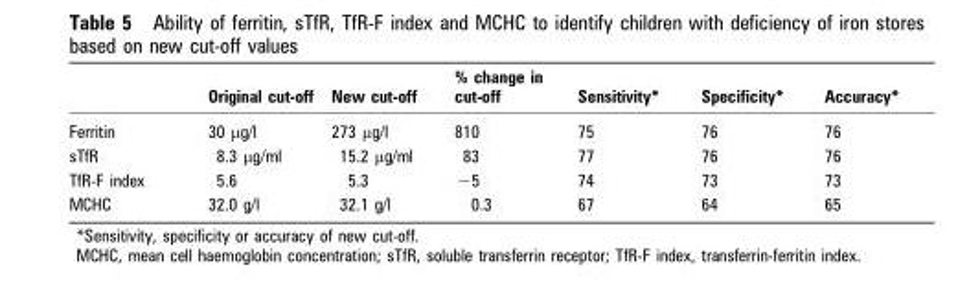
<table><thead><tr><td></td><td>Original cut-off</td><td>New cut-off</td><td>% change in cut-off</td><td>Sensitivity*</td><td>Specificity*</td><td>Accuracy*</td></tr></thead><tbody><tr><td>Ferritin</td><td>30 μg/l</td><td>273 μg/l</td><td>810</td><td>75</td><td>76</td><td>76</td></tr><tr><td>sTfR</td><td>8.3 μg/ml</td><td>15.2 μg/ml</td><td>83</td><td>77</td><td>76</td><td>76</td></tr><tr><td>TfR-F index</td><td>5.6</td><td>5.3</td><td>−5</td><td>74</td><td>73</td><td>73</td></tr><tr><td>MCHC</td><td>32.0 g/l</td><td>32.1 g/l</td><td>0.3</td><td>67</td><td>64</td><td>65</td></tr></tbody></table>